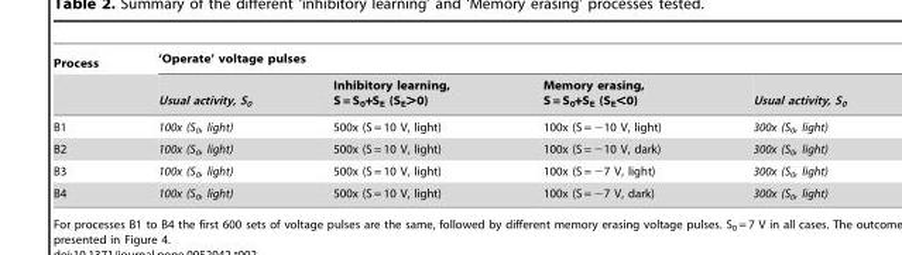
<table><thead><tr><td rowspan="2">Process</td><td colspan="4">‘Operate’ voltage pulses</td></tr><tr><td>Usual activity, S<sub>0</sub></td><td>Inhibitory learning, S = S<sub>0</sub>+S<sub>E</sub> (S<sub>E</sub>&gt;0)</td><td>Memory erasing, S = S<sub>0</sub>+S<sub>E</sub> (S<sub>E</sub>&lt;0)</td><td>Usual activity, S<sub>0</sub></td></tr></thead><tbody><tr><td>B1</td><td>100x (S<sub>0</sub>, light)</td><td>500x (S = 10 V, light)</td><td>100x (S = −10 V, light)</td><td>300x (S<sub>0</sub>, light)</td></tr><tr><td>B2</td><td>100x (S<sub>0</sub>, light)</td><td>500x (S = 10 V, light)</td><td>100x (S = −10 V, dark)</td><td>300x (S<sub>0</sub>, light)</td></tr><tr><td>B3</td><td>100x (S<sub>0</sub>, light)</td><td>500x (S = 10 V, light)</td><td>100x (S = −7 V, light)</td><td>300x (S<sub>0</sub>, light)</td></tr><tr><td>B4</td><td>100x (S<sub>0</sub>, light)</td><td>500x (S = 10 V, light)</td><td>100x (S = −7 V, dark)</td><td>300x (S<sub>0</sub>, light)</td></tr></tbody></table>